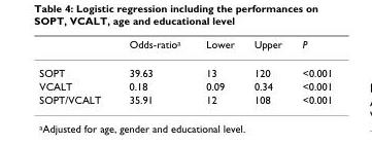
<table><thead><tr><td></td><td>Odds-ratio<sup>a</sup></td><td>Lower</td><td>Upper</td><td>P</td></tr></thead><tbody><tr><td>SOPT</td><td>39.63</td><td>13</td><td>120</td><td>&lt;0.001</td></tr><tr><td>VCALT</td><td>0.18</td><td>0.09</td><td>0.34</td><td>&lt;0.001</td></tr><tr><td>SOPT/VCALT</td><td>35.91</td><td>12</td><td>108</td><td>&lt;0.001</td></tr></tbody></table>